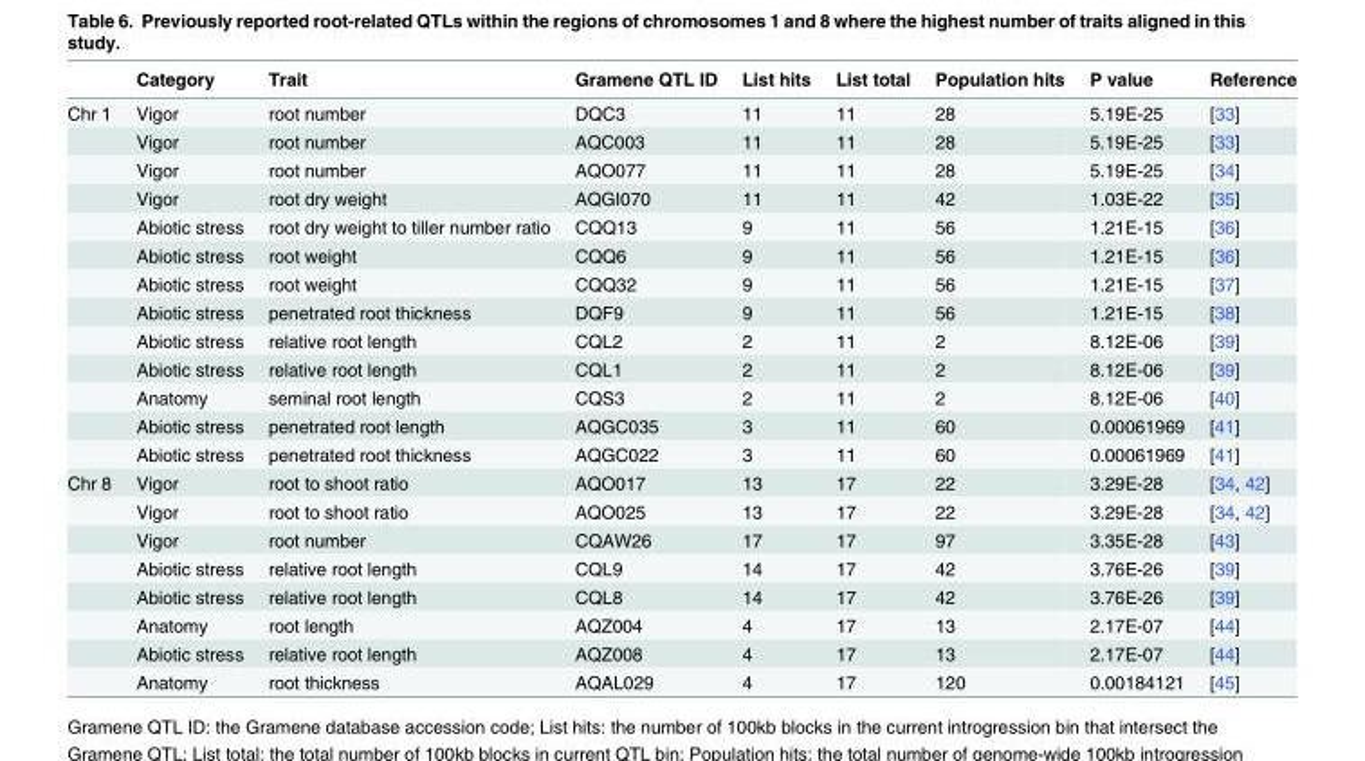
<table><thead><tr><td></td><td>Category</td><td>Trait</td><td>Gramene QTL ID</td><td>List hits</td><td>List total</td><td>Population hits</td><td>P value</td><td>Reference</td></tr></thead><tbody><tr><td rowspan="13">Chr 1</td><td>Vigor</td><td>root number</td><td>DQC3</td><td>11</td><td>11</td><td>28</td><td>5.19E-25</td><td>[33]</td></tr><tr><td>Vigor</td><td>root number</td><td>AQC003</td><td>11</td><td>11</td><td>28</td><td>5.19E-25</td><td>[33]</td></tr><tr><td>Vigor</td><td>root number</td><td>AQO077</td><td>11</td><td>11</td><td>28</td><td>5.19E-25</td><td>[34]</td></tr><tr><td>Vigor</td><td>root dry weight</td><td>AQGI070</td><td>11</td><td>11</td><td>42</td><td>1.03E-22</td><td>[35]</td></tr><tr><td>Abiotic stress</td><td>root dry weight to tiller number ratio</td><td>CQQ13</td><td>9</td><td>11</td><td>56</td><td>1.21E-15</td><td>[36]</td></tr><tr><td>Abiotic stress</td><td>root weight</td><td>CQQ6</td><td>9</td><td>11</td><td>56</td><td>1.21E-15</td><td>[36]</td></tr><tr><td>Abiotic stress</td><td>root weight</td><td>CQQ32</td><td>9</td><td>11</td><td>56</td><td>1.21E-15</td><td>[37]</td></tr><tr><td>Abiotic stress</td><td>penetrated root thickness</td><td>DQF9</td><td>9</td><td>11</td><td>56</td><td>1.21E-15</td><td>[38]</td></tr><tr><td>Abiotic stress</td><td>relative root length</td><td>CQL2</td><td>2</td><td>11</td><td>2</td><td>8.12E-06</td><td>[39]</td></tr><tr><td>Abiotic stress</td><td>relative root length</td><td>CQL1</td><td>2</td><td>11</td><td>2</td><td>8.12E-06</td><td>[39]</td></tr><tr><td>Anatomy</td><td>seminal root length</td><td>CQS3</td><td>2</td><td>11</td><td>2</td><td>8.12E-06</td><td>[40]</td></tr><tr><td>Abiotic stress</td><td>penetrated root length</td><td>AQGC035</td><td>3</td><td>11</td><td>60</td><td>0.00061969</td><td>[41]</td></tr><tr><td>Abiotic stress</td><td>penetrated root thickness</td><td>AQGC022</td><td>3</td><td>11</td><td>60</td><td>0.00061969</td><td>[41]</td></tr><tr><td rowspan="8">Chr 8</td><td>Vigor</td><td>root to shoot ratio</td><td>AQO017</td><td>13</td><td>17</td><td>22</td><td>3.29E-28</td><td>[34, 42]</td></tr><tr><td>Vigor</td><td>root to shoot ratio</td><td>AQO025</td><td>13</td><td>17</td><td>22</td><td>3.29E-28</td><td>[34, 42]</td></tr><tr><td>Vigor</td><td>root number</td><td>CQAW26</td><td>17</td><td>17</td><td>97</td><td>3.35E-28</td><td>[43]</td></tr><tr><td>Abiotic stress</td><td>relative root length</td><td>CQL9</td><td>14</td><td>17</td><td>42</td><td>3.76E-26</td><td>[39]</td></tr><tr><td>Abiotic stress</td><td>relative root length</td><td>CQL8</td><td>14</td><td>17</td><td>42</td><td>3.76E-26</td><td>[39]</td></tr><tr><td>Anatomy</td><td>root length</td><td>AQZ004</td><td>4</td><td>17</td><td>13</td><td>2.17E-07</td><td>[44]</td></tr><tr><td>Abiotic stress</td><td>relative root length</td><td>AQZ008</td><td>4</td><td>17</td><td>13</td><td>2.17E-07</td><td>[44]</td></tr><tr><td>Anatomy</td><td>root thickness</td><td>AQAL029</td><td>4</td><td>17</td><td>120</td><td>0.00184121</td><td>[45]</td></tr></tbody></table>